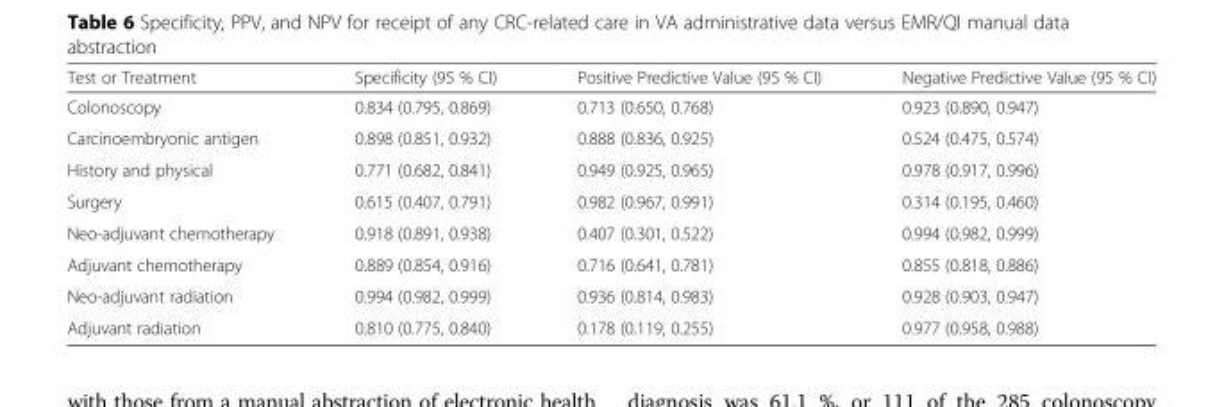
<table><thead><tr><td>Test or Treatment</td><td>Specificity (95 % CI)</td><td>Positive Predictive Value (95 % CI)</td><td>Negative Predictive Value (95 % CI)</td></tr></thead><tbody><tr><td>Colonoscopy</td><td>0.834 (0.795, 0.869)</td><td>0.713 (0.650, 0.768)</td><td>0.923 (0.890, 0.947)</td></tr><tr><td>Carcinoembryonic antigen</td><td>0.898 (0.851, 0.932)</td><td>0.888 (0.836, 0.925)</td><td>0.524 (0.475, 0.574)</td></tr><tr><td>History and physical</td><td>0.771 (0.682, 0.841)</td><td>0.949 (0.925, 0.965)</td><td>0.978 (0.917, 0.996)</td></tr><tr><td>Surgery</td><td>0.615 (0.407, 0.791)</td><td>0.982 (0.967, 0.991)</td><td>0.314 (0.195, 0.460)</td></tr><tr><td>Neo-adjuvant chemotherapy</td><td>0.918 (0.891, 0.938)</td><td>0.407 (0.301, 0.522)</td><td>0.994 (0.982, 0.999)</td></tr><tr><td>Adjuvant chemotherapy</td><td>0.889 (0.854, 0.916)</td><td>0.716 (0.641, 0.781)</td><td>0.855 (0.818, 0.886)</td></tr><tr><td>Neo-adjuvant radiation</td><td>0.994 (0.982, 0.999)</td><td>0.936 (0.814, 0.983)</td><td>0.928 (0.903, 0.947)</td></tr><tr><td>Adjuvant radiation</td><td>0.810 (0.775, 0.840)</td><td>0.178 (0.119, 0.255)</td><td>0.977 (0.958, 0.988)</td></tr></tbody></table>